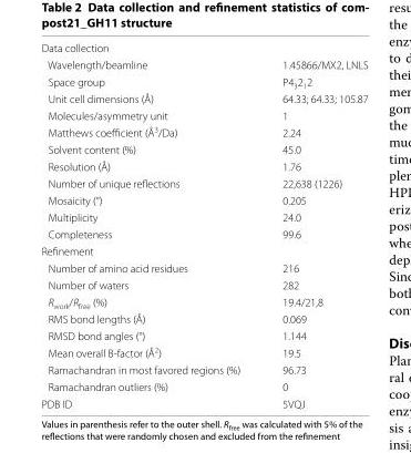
<table><tbody><tr><td colspan="2">Data collection</td></tr><tr><td>Wavelength/beamline</td><td>1.45866/MX2, LNLS</td></tr><tr><td>Space group</td><td>P4<sub>3</sub>2<sub>1</sub>2</td></tr><tr><td>Unit cell dimensions (Å)</td><td>64.33; 64.33; 105.87</td></tr><tr><td>Molecules/asymmetry unit</td><td>1</td></tr><tr><td>Matthews coefficient (Å<sup>3</sup>/Da)</td><td>2.24</td></tr><tr><td>Solvent content (%)</td><td>45.0</td></tr><tr><td>Resolution (Å)</td><td>1.76</td></tr><tr><td>Number of unique reflections</td><td>22,638 (1226)</td></tr><tr><td>Mosaicity (°)</td><td>0.205</td></tr><tr><td>Multiplicity</td><td>24.0</td></tr><tr><td>Completeness</td><td>99.6</td></tr><tr><td colspan="2">Refinement</td></tr><tr><td>Number of amino acid residues</td><td>216</td></tr><tr><td>Number of waters</td><td>282</td></tr><tr><td>R<sub>work</sub>/R<sub>free</sub> (%)</td><td>19.4/21,8</td></tr><tr><td>RMS bond lengths (Å)</td><td>0.069</td></tr><tr><td>RMSD bond angles (°)</td><td>1.144</td></tr><tr><td>Mean overall B‑factor (Å<sup>2</sup>)</td><td>19.5</td></tr><tr><td>Ramachandran in most favored regions (%)</td><td>96.73</td></tr><tr><td>Ramachandran outliers (%)</td><td>0</td></tr><tr><td>PDB ID</td><td>5VQJ</td></tr></tbody></table>